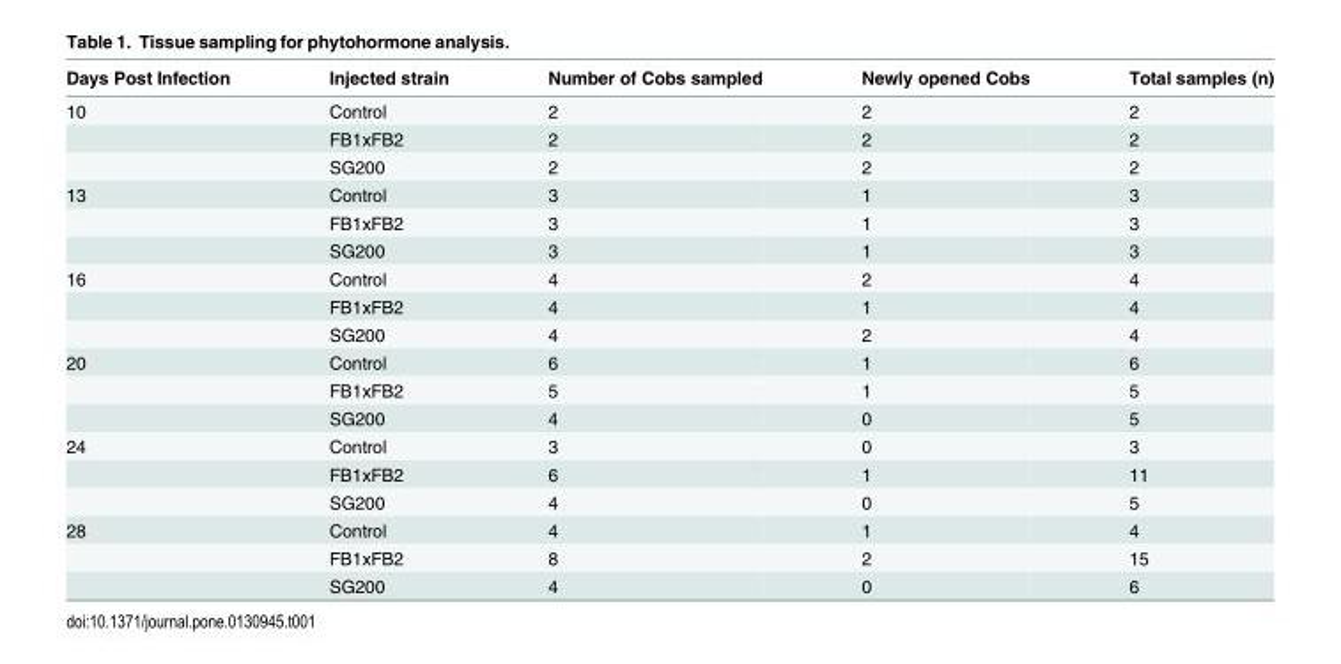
<table><thead><tr><td>Days Post Infection</td><td>Injected strain</td><td>Number of Cobs sampled</td><td>Newly opened Cobs</td><td>Total samples (n)</td></tr></thead><tbody><tr><td rowspan="3">10</td><td>Control</td><td>2</td><td>2</td><td>2</td></tr><tr><td>FB1xFB2</td><td>2</td><td>2</td><td>2</td></tr><tr><td>SG200</td><td>2</td><td>2</td><td>2</td></tr><tr><td rowspan="3">13</td><td>Control</td><td>3</td><td>1</td><td>3</td></tr><tr><td>FB1xFB2</td><td>3</td><td>1</td><td>3</td></tr><tr><td>SG200</td><td>3</td><td>1</td><td>3</td></tr><tr><td rowspan="3">16</td><td>Control</td><td>4</td><td>2</td><td>4</td></tr><tr><td>FB1xFB2</td><td>4</td><td>1</td><td>4</td></tr><tr><td>SG200</td><td>4</td><td>2</td><td>4</td></tr><tr><td rowspan="3">20</td><td>Control</td><td>6</td><td>1</td><td>6</td></tr><tr><td>FB1xFB2</td><td>5</td><td>1</td><td>5</td></tr><tr><td>SG200</td><td>4</td><td>0</td><td>5</td></tr><tr><td rowspan="3">24</td><td>Control</td><td>3</td><td>0</td><td>3</td></tr><tr><td>FB1xFB2</td><td>6</td><td>1</td><td>11</td></tr><tr><td>SG200</td><td>4</td><td>0</td><td>5</td></tr><tr><td rowspan="3">28</td><td>Control</td><td>4</td><td>1</td><td>4</td></tr><tr><td>FB1xFB2</td><td>8</td><td>2</td><td>15</td></tr><tr><td>SG200</td><td>4</td><td>0</td><td>6</td></tr></tbody></table>